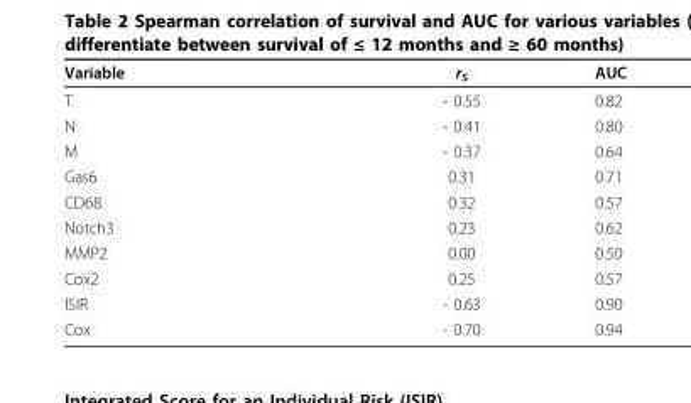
<table><thead><tr><td>Variable</td><td>r<sub>S</sub></td><td>AUC</td></tr></thead><tbody><tr><td>T</td><td>- 0.55</td><td>0.82</td></tr><tr><td>N</td><td>- 0.41</td><td>0.80</td></tr><tr><td>M</td><td>- 0.37</td><td>0.64</td></tr><tr><td>Gas6</td><td>0.31</td><td>0.71</td></tr><tr><td>CD68</td><td>0.32</td><td>0.57</td></tr><tr><td>Notch3</td><td>0.23</td><td>0.62</td></tr><tr><td>MMP2</td><td>0.00</td><td>0.50</td></tr><tr><td>Cox2</td><td>0.25</td><td>0.57</td></tr><tr><td>ISIR</td><td>- 0.63</td><td>0.90</td></tr><tr><td>Cox</td><td>- 0.70</td><td>0.94</td></tr></tbody></table>